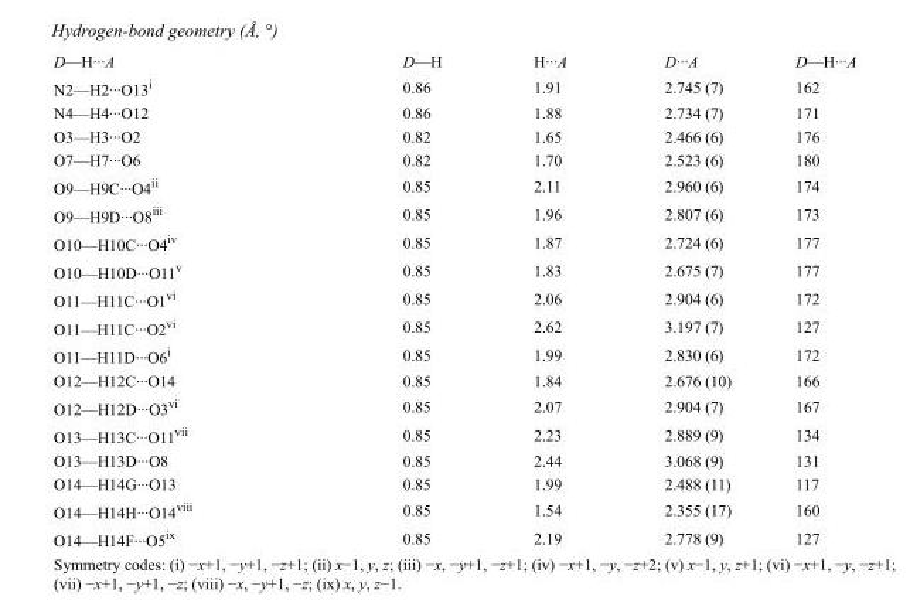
<table><tbody><tr><td>D—H···A</td><td>D—H</td><td>H···A</td><td>D···A</td><td>D—H···A</td></tr><tr><td>N2—H2···O13<sup>i</sup></td><td>0.86</td><td>1.91</td><td>2.745 (7)</td><td>162</td></tr><tr><td>N4—H4···O12</td><td>0.86</td><td>1.88</td><td>2.734 (7)</td><td>171</td></tr><tr><td>O3—H3···O2</td><td>0.82</td><td>1.65</td><td>2.466 (6)</td><td>176</td></tr><tr><td>O7—H7···O6</td><td>0.82</td><td>1.70</td><td>2.523 (6)</td><td>180</td></tr><tr><td>O9—H9C···O4<sup>ii</sup></td><td>0.85</td><td>2.11</td><td>2.960 (6)</td><td>174</td></tr><tr><td>O9—H9D···O8<sup>iii</sup></td><td>0.85</td><td>1.96</td><td>2.807 (6)</td><td>173</td></tr><tr><td>O10—H10C···O4<sup>iv</sup></td><td>0.85</td><td>1.87</td><td>2.724 (6)</td><td>177</td></tr><tr><td>O10—H10D···O11<sup>v</sup></td><td>0.85</td><td>1.83</td><td>2.675 (7)</td><td>177</td></tr><tr><td>O11—H11C···O1<sup>vi</sup></td><td>0.85</td><td>2.06</td><td>2.904 (6)</td><td>172</td></tr><tr><td>O11—H11C···O2<sup>vi</sup></td><td>0.85</td><td>2.62</td><td>3.197 (7)</td><td>127</td></tr><tr><td>O11—H11D···O6<sup>i</sup></td><td>0.85</td><td>1.99</td><td>2.830 (6)</td><td>172</td></tr><tr><td>O12—H12C···O14</td><td>0.85</td><td>1.84</td><td>2.676 (10)</td><td>166</td></tr><tr><td>O12—H12D···O3<sup>vi</sup></td><td>0.85</td><td>2.07</td><td>2.904 (7)</td><td>167</td></tr><tr><td>O13—H13C···O11<sup>vii</sup></td><td>0.85</td><td>2.23</td><td>2.889 (9)</td><td>134</td></tr><tr><td>O13—H13D···O8</td><td>0.85</td><td>2.44</td><td>3.068 (9)</td><td>131</td></tr><tr><td>O14—H14G···O13</td><td>0.85</td><td>1.99</td><td>2.488 (11)</td><td>117</td></tr><tr><td>O14—H14H···O14<sup>viii</sup></td><td>0.85</td><td>1.54</td><td>2.355 (17)</td><td>160</td></tr><tr><td>O14—H14F···O5<sup>ix</sup></td><td>0.85</td><td>2.19</td><td>2.778 (9)</td><td>127</td></tr></tbody></table>